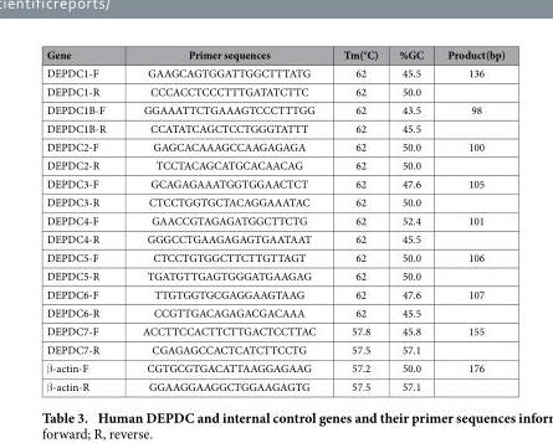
<table><thead><tr><td>Gene</td><td>Primer sequences</td><td>Tm(°C)</td><td>%GC</td><td>Product(bp)</td></tr></thead><tbody><tr><td>DEPDC1-F</td><td>GAAGCAGTGGATTGGCTTTATG</td><td>62</td><td>45.5</td><td>136</td></tr><tr><td>DEPDC1-R</td><td>CCCACCTCCCTTTGATATCTTC</td><td>62</td><td>50.0</td><td></td></tr><tr><td>DEPDC1B-F</td><td>GGAAATTCTGAAAGTCCCTTTGG</td><td>62</td><td>43.5</td><td>98</td></tr><tr><td>DEPDC1B-R</td><td>CCATATCAGCTCCTGGGTATTT</td><td>62</td><td>45.5</td><td></td></tr><tr><td>DEPDC2-F</td><td>GAGCACAAAGCCAAGAGAGA</td><td>62</td><td>50.0</td><td>100</td></tr><tr><td>DEPDC2-R</td><td>TCCTACAGCATGCACAACAG</td><td>62</td><td>50.0</td><td></td></tr><tr><td>DEPDC3-F</td><td>GCAGAGAAATGGTGGAACTCT</td><td>62</td><td>47.6</td><td>105</td></tr><tr><td>DEPDC3-R</td><td>CTCCTGGTGCTACAGGAAATAC</td><td>62</td><td>50.0</td><td></td></tr><tr><td>DEPDC4-F</td><td>GAACCGTAGAGATGGCTTCTG</td><td>62</td><td>52.4</td><td>101</td></tr><tr><td>DEPDC4-R</td><td>GGGCCTGAAGAGAGTGAATAAT</td><td>62</td><td>45.5</td><td></td></tr><tr><td>DEPDC5-F</td><td>CTCCTGTGGCTTCTTGTTAGT</td><td>62</td><td>50.0</td><td>106</td></tr><tr><td>DEPDC5-R</td><td>TGATGTTGAGTGGGATGAAGAG</td><td>62</td><td>50.0</td><td></td></tr><tr><td>DEPDC6-F</td><td>TTGTGGTGCGAGGAAGTAAG</td><td>62</td><td>47.6</td><td>107</td></tr><tr><td>DEPDC6-R</td><td>CCGTTGACAGAGACGACAAA</td><td>62</td><td>45.5</td><td></td></tr><tr><td>DEPDC7-F</td><td>ACCTTCCACTTCTTGACTCCTTAC</td><td>57.8</td><td>45.8</td><td>155</td></tr><tr><td>DEPDC7-R</td><td>CGAGAGCCACTCATCTTCCTG</td><td>57.5</td><td>57.1</td><td></td></tr><tr><td>β -actin-F</td><td>CGTGCGTGACATTAAGGAGAAG</td><td>57.2</td><td>50.0</td><td>176</td></tr><tr><td>β -actin-R</td><td>GGAAGGAAGGCTGGAAGAGTG</td><td>57.5</td><td>57.1</td><td></td></tr></tbody></table>